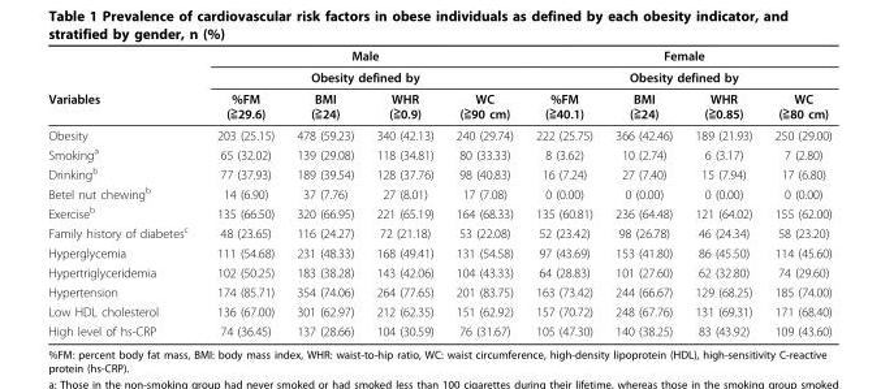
<table><thead><tr><td rowspan="3">Variables</td><td rowspan="2" colspan="4">Male Obesity defined by</td><td rowspan="2" colspan="4">Female Obesity defined by</td></tr><tr></tr><tr><td>%FM (≧29.6)</td><td>BMI (≧24)</td><td>WHR (≧0.9)</td><td>WC (≧90 cm)</td><td>%FM (≧40.1)</td><td>BMI (≧24)</td><td>WHR (≧0.85)</td><td>WC (≧80 cm)</td></tr></thead><tbody><tr><td>Obesity</td><td>203 (25.15)</td><td>478 (59.23)</td><td>340 (42.13)</td><td>240 (29.74)</td><td>222 (25.75)</td><td>366 (42.46)</td><td>189 (21.93)</td><td>250 (29.00)</td></tr><tr><td>Smoking<sup>a</sup></td><td>65 (32.02)</td><td>139 (29.08)</td><td>118 (34.81)</td><td>80 (33.33)</td><td>8 (3.62)</td><td>10 (2.74)</td><td>6 (3.17)</td><td>7 (2.80)</td></tr><tr><td>Drinking<sup>b</sup></td><td>77 (37.93)</td><td>189 (39.54)</td><td>128 (37.76)</td><td>98 (40.83)</td><td>16 (7.24)</td><td>27 (7.40)</td><td>15 (7.94)</td><td>17 (6.80)</td></tr><tr><td>Betel nut chewing<sup>b</sup></td><td>14 (6.90)</td><td>37 (7.76)</td><td>27 (8.01)</td><td>17 (7.08)</td><td>0 (0.00)</td><td>0 (0.00)</td><td>0 (0.00)</td><td>0 (0.00)</td></tr><tr><td>Exercise<sup>b</sup></td><td>135 (66.50)</td><td>320 (66.95)</td><td>221 (65.19)</td><td>164 (68.33)</td><td>135 (60.81)</td><td>236 (64.48)</td><td>121 (64.02)</td><td>155 (62.00)</td></tr><tr><td>Family history of diabetes<sup>c</sup></td><td>48 (23.65)</td><td>116 (24.27)</td><td>72 (21.18)</td><td>53 (22.08)</td><td>52 (23.42)</td><td>98 (26.78)</td><td>46 (24.34)</td><td>58 (23.20)</td></tr><tr><td>Hyperglycemia</td><td>111 (54.68)</td><td>231 (48.33)</td><td>168 (49.41)</td><td>131 (54.58)</td><td>97 (43.69)</td><td>153 (41.80)</td><td>86 (45.50)</td><td>114 (45.60)</td></tr><tr><td>Hypertriglyceridemia</td><td>102 (50.25)</td><td>183 (38.28)</td><td>143 (42.06)</td><td>104 (43.33)</td><td>64 (28.83)</td><td>101 (27.60)</td><td>62 (32.80)</td><td>74 (29.60)</td></tr><tr><td>Hypertension</td><td>174 (85.71)</td><td>354 (74.06)</td><td>264 (77.65)</td><td>201 (83.75)</td><td>163 (73.42)</td><td>244 (66.67)</td><td>129 (68.25)</td><td>185 (74.00)</td></tr><tr><td>Low HDL cholesterol</td><td>136 (67.00)</td><td>301 (62.97)</td><td>212 (62.35)</td><td>151 (62.92)</td><td>157 (70.72)</td><td>248 (67.76)</td><td>131 (69.31)</td><td>171 (68.40)</td></tr><tr><td>High level of hs-CRP</td><td>74 (36.45)</td><td>137 (28.66)</td><td>104 (30.59)</td><td>76 (31.67)</td><td>105 (47.30)</td><td>140 (38.25)</td><td>83 (43.92)</td><td>109 (43.60)</td></tr></tbody></table>